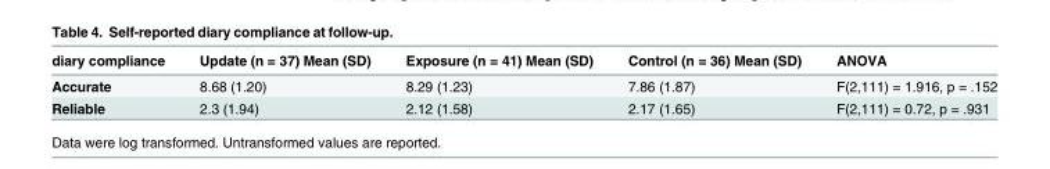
<table><thead><tr><td>diary compliance</td><td>Update (n = 37) Mean (SD)</td><td>Exposure (n = 41) Mean (SD)</td><td>Control (n = 36) Mean (SD)</td><td>ANOVA</td></tr></thead><tbody><tr><td>Accurate</td><td>8.68 (1.20)</td><td>8.29 (1.23)</td><td>7.86 (1.87)</td><td>F(2,111) = 1.916, p = .152</td></tr><tr><td>Reliable</td><td>2.3 (1.94)</td><td>2.12 (1.58)</td><td>2.17 (1.65)</td><td>F(2,111) = 0.72, p = .931</td></tr></tbody></table>